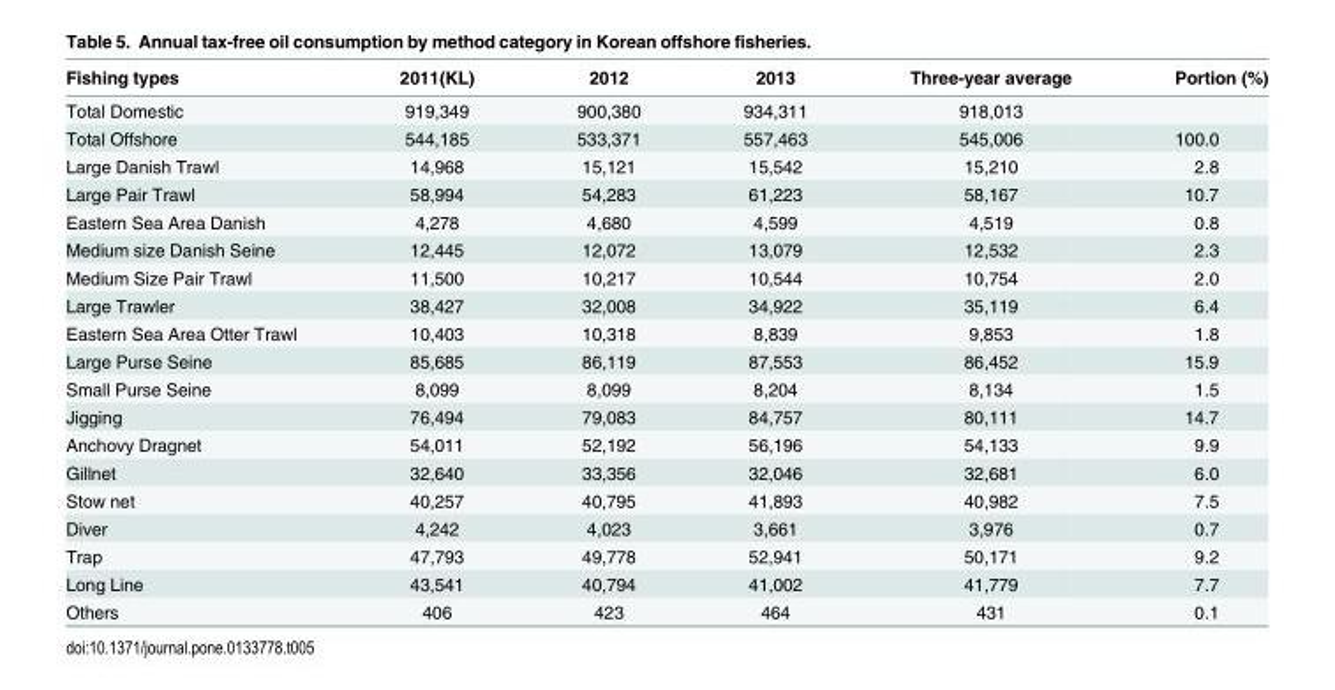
<table><thead><tr><td>Fishing types</td><td>2011(KL)</td><td>2012</td><td>2013</td><td>Three-year average</td><td>Portion (%)</td></tr></thead><tbody><tr><td>Total Domestic</td><td>919,349</td><td>900,380</td><td>934,311</td><td>918,013</td><td></td></tr><tr><td>Total Offshore</td><td>544,185</td><td>533,371</td><td>557,463</td><td>545,006</td><td>100.0</td></tr><tr><td>Large Danish Trawl</td><td>14,968</td><td>15,121</td><td>15,542</td><td>15,210</td><td>2.8</td></tr><tr><td>Large Pair Trawl</td><td>58,994</td><td>54,283</td><td>61,223</td><td>58,167</td><td>10.7</td></tr><tr><td>Eastern Sea Area Danish</td><td>4,278</td><td>4,680</td><td>4,599</td><td>4,519</td><td>0.8</td></tr><tr><td>Medium size Danish Seine</td><td>12,445</td><td>12,072</td><td>13,079</td><td>12,532</td><td>2.3</td></tr><tr><td>Medium Size Pair Trawl</td><td>11,500</td><td>10,217</td><td>10,544</td><td>10,754</td><td>2.0</td></tr><tr><td>Large Trawler</td><td>38,427</td><td>32,008</td><td>34,922</td><td>35,119</td><td>6.4</td></tr><tr><td>Eastern Sea Area Otter Trawl</td><td>10,403</td><td>10,318</td><td>8,839</td><td>9,853</td><td>1.8</td></tr><tr><td>Large Purse Seine</td><td>85,685</td><td>86,119</td><td>87,553</td><td>86,452</td><td>15.9</td></tr><tr><td>Small Purse Seine</td><td>8,099</td><td>8,099</td><td>8,204</td><td>8,134</td><td>1.5</td></tr><tr><td>Jigging</td><td>76,494</td><td>79,083</td><td>84,757</td><td>80,111</td><td>14.7</td></tr><tr><td>Anchovy Dragnet</td><td>54,011</td><td>52,192</td><td>56,196</td><td>54,133</td><td>9.9</td></tr><tr><td>Gillnet</td><td>32,640</td><td>33,356</td><td>32,046</td><td>32,681</td><td>6.0</td></tr><tr><td>Stow net</td><td>40,257</td><td>40,795</td><td>41,893</td><td>40,982</td><td>7.5</td></tr><tr><td>Diver</td><td>4,242</td><td>4,023</td><td>3,661</td><td>3,976</td><td>0.7</td></tr><tr><td>Trap</td><td>47,793</td><td>49,778</td><td>52,941</td><td>50,171</td><td>9.2</td></tr><tr><td>Long Line</td><td>43,541</td><td>40,794</td><td>41,002</td><td>41,779</td><td>7.7</td></tr><tr><td>Others</td><td>406</td><td>423</td><td>464</td><td>431</td><td>0.1</td></tr></tbody></table>